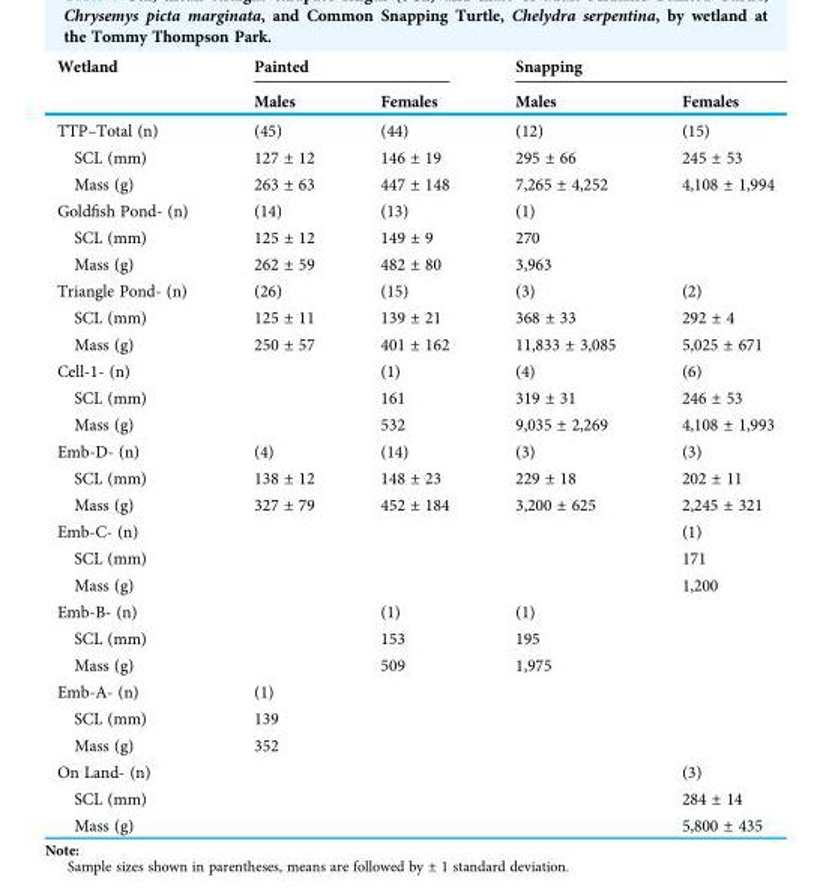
<table><thead><tr><td rowspan="2">Wetland</td><td colspan="2">Painted</td><td colspan="2">Snapping</td></tr><tr><td>Males</td><td>Females</td><td>Males</td><td>Females</td></tr></thead><tbody><tr><td>TTP–Total (n)</td><td>(45)</td><td>(44)</td><td>(12)</td><td>(15)</td></tr><tr><td>SCL (mm)</td><td>127 ± 12</td><td>146 ± 19</td><td>295 ± 66</td><td>245 ± 53</td></tr><tr><td>Mass (g)</td><td>263 ± 63</td><td>447 ± 148</td><td>7,265 ± 4,252</td><td>4,108 ± 1,994</td></tr><tr><td>Goldfish Pond- (n)</td><td>(14)</td><td>(13)</td><td>(1)</td><td></td></tr><tr><td>SCL (mm)</td><td>125 ± 12</td><td>149 ± 9</td><td>270</td><td></td></tr><tr><td>Mass (g)</td><td>262 ± 59</td><td>482 ± 80</td><td>3,963</td><td></td></tr><tr><td>Triangle Pond- (n)</td><td>(26)</td><td>(15)</td><td>(3)</td><td>(2)</td></tr><tr><td>SCL (mm)</td><td>125 ± 11</td><td>139 ± 21</td><td>368 ± 33</td><td>292 ± 4</td></tr><tr><td>Mass (g)</td><td>250 ± 57</td><td>401 ± 162</td><td>11,833 ± 3,085</td><td>5,025 ± 671</td></tr><tr><td>Cell-1- (n)</td><td></td><td>(1)</td><td>(4)</td><td>(6)</td></tr><tr><td>SCL (mm)</td><td></td><td>161</td><td>319 ± 31</td><td>246 ± 53</td></tr><tr><td>Mass (g)</td><td></td><td>532</td><td>9,035 ± 2,269</td><td>4,108 ± 1,993</td></tr><tr><td>Emb-D- (n)</td><td>(4)</td><td>(14)</td><td>(3)</td><td>(3)</td></tr><tr><td>SCL (mm)</td><td>138 ± 12</td><td>148 ± 23</td><td>229 ± 18</td><td>202 ± 11</td></tr><tr><td>Mass (g)</td><td>327 ± 79</td><td>452 ± 184</td><td>3,200 ± 625</td><td>2,245 ± 321</td></tr><tr><td>Emb-C- (n)</td><td></td><td></td><td></td><td>(1)</td></tr><tr><td>SCL (mm)</td><td></td><td></td><td></td><td>171</td></tr><tr><td>Mass (g)</td><td></td><td></td><td></td><td>1,200</td></tr><tr><td>Emb-B- (n)</td><td></td><td>(1)</td><td>(1)</td><td></td></tr><tr><td>SCL (mm)</td><td></td><td>153</td><td>195</td><td></td></tr><tr><td>Mass (g)</td><td></td><td>509</td><td>1,975</td><td></td></tr><tr><td>Emb-A- (n)</td><td>(1)</td><td></td><td></td><td></td></tr><tr><td>SCL (mm)</td><td>139</td><td></td><td></td><td></td></tr><tr><td>Mass (g)</td><td>352</td><td></td><td></td><td></td></tr><tr><td>On Land- (n)</td><td></td><td></td><td></td><td>(3)</td></tr><tr><td>SCL (mm)</td><td></td><td></td><td></td><td>284 ± 14</td></tr><tr><td>Mass (g)</td><td></td><td></td><td></td><td>5,800 ± 435</td></tr></tbody></table>